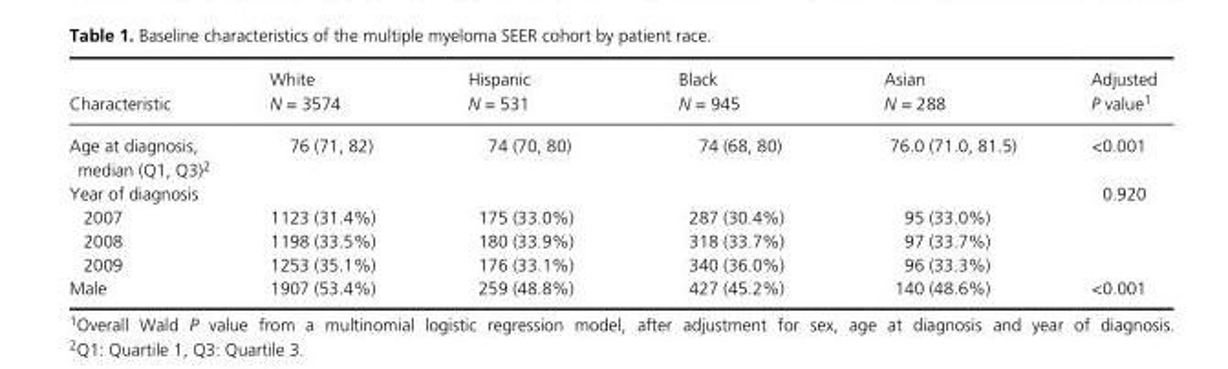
<table><thead><tr><td>Characteristic</td><td>White N = 3574</td><td>Hispanic N = 531</td><td>Black N = 945</td><td>Asian N = 288</td><td>Adjusted P value1</td></tr></thead><tbody><tr><td>Age at diagnosis, median (Q1, Q3)2</td><td>76 (71, 82)</td><td>74 (70, 80)</td><td>74 (68, 80)</td><td>76.0 (71.0, 81.5)</td><td>&lt;0.001</td></tr><tr><td>Year of diagnosis</td><td></td><td></td><td></td><td></td><td>0.920</td></tr><tr><td>2007</td><td>1123 (31.4%)</td><td>175 (33.0%)</td><td>287 (30.4%)</td><td>95 (33.0%)</td><td></td></tr><tr><td>2008</td><td>1198 (33.5%)</td><td>180 (33.9%)</td><td>318 (33.7%)</td><td>97 (33.7%)</td><td></td></tr><tr><td>2009</td><td>1253 (35.1%)</td><td>176 (33.1%)</td><td>340 (36.0%)</td><td>96 (33.3%)</td><td></td></tr><tr><td>Male</td><td>1907 (53.4%)</td><td>259 (48.8%)</td><td>427 (45.2%)</td><td>140 (48.6%)</td><td>&lt;0.001</td></tr></tbody></table>